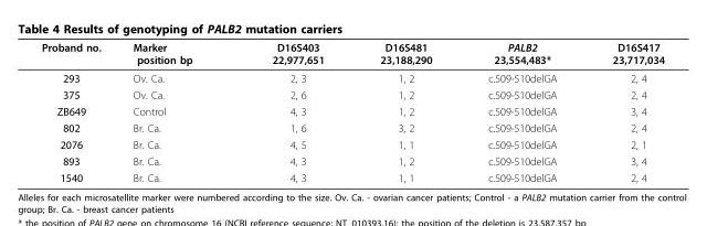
<table><thead><tr><td>Proband no.</td><td>Marker position bp</td><td>D16S403 22,977,651</td><td>D16S481 23,188,290</td><td>PALB2 23,554,483*</td><td>D16S417 23,717,034</td></tr></thead><tbody><tr><td>293</td><td>Ov. Ca.</td><td>2, 3</td><td>1, 2</td><td>c.509-510delGA</td><td>2, 4</td></tr><tr><td>375</td><td>Ov. Ca.</td><td>2, 6</td><td>1, 2</td><td>c.509-510delGA</td><td>2, 4</td></tr><tr><td>ZB649</td><td>Control</td><td>4, 3</td><td>1, 2</td><td>c.509-510delGA</td><td>3, 4</td></tr><tr><td>802</td><td>Br. Ca.</td><td>1, 6</td><td>3, 2</td><td>c.509-510delGA</td><td>2, 4</td></tr><tr><td>2076</td><td>Br. Ca.</td><td>4, 5</td><td>1, 1</td><td>c.509-510delGA</td><td>2, 1</td></tr><tr><td>893</td><td>Br. Ca.</td><td>4, 3</td><td>1, 2</td><td>c.509-510delGA</td><td>3, 4</td></tr><tr><td>1540</td><td>Br. Ca.</td><td>4, 3</td><td>1, 1</td><td>c.509-510delGA</td><td>2, 4</td></tr></tbody></table>